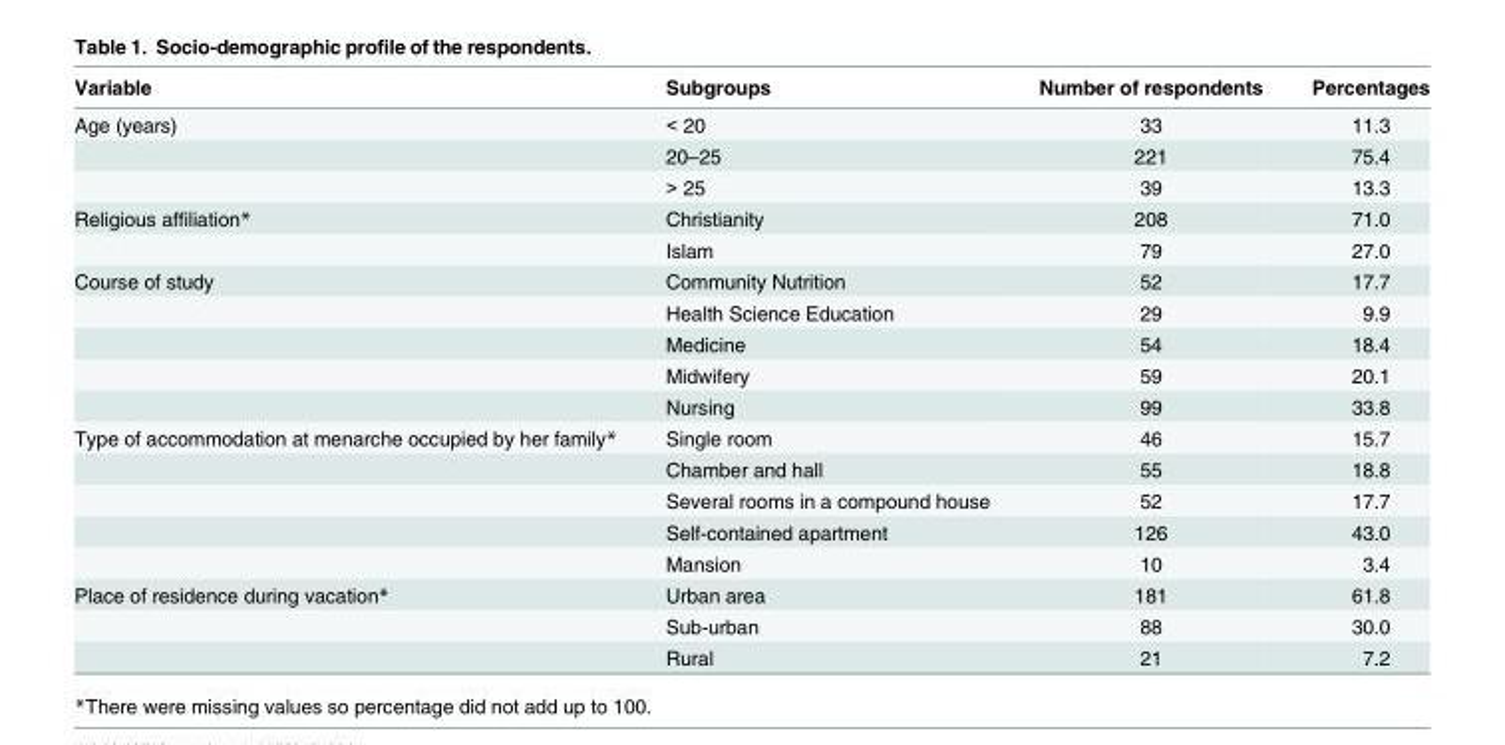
<table><thead><tr><td>Variable</td><td>Subgroups</td><td>Number of respondents</td><td>Percentages</td></tr></thead><tbody><tr><td rowspan="3">Age (years)</td><td>&lt; 20</td><td>33</td><td>11.3</td></tr><tr><td>20–25</td><td>221</td><td>75.4</td></tr><tr><td>&gt; 25</td><td>39</td><td>13.3</td></tr><tr><td rowspan="2">Religious affiliation*</td><td>Christianity</td><td>208</td><td>71.0</td></tr><tr><td>Islam</td><td>79</td><td>27.0</td></tr><tr><td rowspan="5">Course of study</td><td>Community Nutrition</td><td>52</td><td>17.7</td></tr><tr><td>Health Science Education</td><td>29</td><td>9.9</td></tr><tr><td>Medicine</td><td>54</td><td>18.4</td></tr><tr><td>Midwifery</td><td>59</td><td>20.1</td></tr><tr><td>Nursing</td><td>99</td><td>33.8</td></tr><tr><td rowspan="5">Type of accommodation at menarche occupied by her family*</td><td>Single room</td><td>46</td><td>15.7</td></tr><tr><td>Chamber and hall</td><td>55</td><td>18.8</td></tr><tr><td>Several rooms in a compound house</td><td>52</td><td>17.7</td></tr><tr><td>Self-contained apartment</td><td>126</td><td>43.0</td></tr><tr><td>Mansion</td><td>10</td><td>3.4</td></tr><tr><td rowspan="3">Place of residence during vacation*</td><td>Urban area</td><td>181</td><td>61.8</td></tr><tr><td>Sub-urban</td><td>88</td><td>30.0</td></tr><tr><td>Rural</td><td>21</td><td>7.2</td></tr></tbody></table>